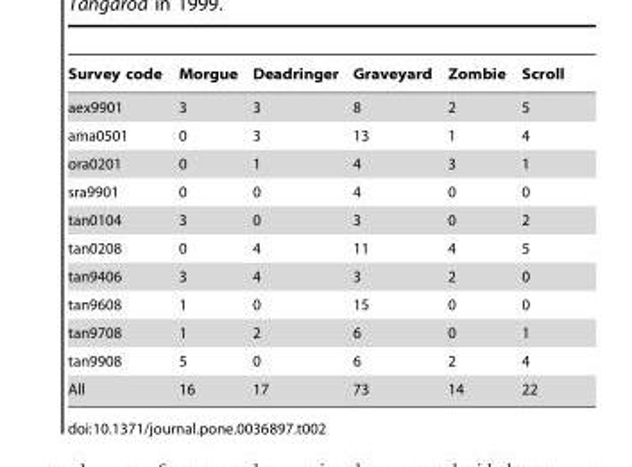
<table><thead><tr><td>Survey code</td><td>Morgue</td><td>Deadringer</td><td>Graveyard</td><td>Zombie</td><td>Scroll</td></tr></thead><tbody><tr><td>aex9901</td><td>3</td><td>3</td><td>8</td><td>2</td><td>5</td></tr><tr><td>ama0501</td><td>0</td><td>3</td><td>13</td><td>1</td><td>4</td></tr><tr><td>ora0201</td><td>0</td><td>1</td><td>4</td><td>3</td><td>1</td></tr><tr><td>sra9901</td><td>0</td><td>0</td><td>4</td><td>0</td><td>0</td></tr><tr><td>tan0104</td><td>3</td><td>0</td><td>3</td><td>0</td><td>2</td></tr><tr><td>tan0208</td><td>0</td><td>4</td><td>11</td><td>4</td><td>5</td></tr><tr><td>tan9406</td><td>3</td><td>4</td><td>3</td><td>2</td><td>0</td></tr><tr><td>tan9608</td><td>1</td><td>0</td><td>15</td><td>0</td><td>0</td></tr><tr><td>tan9708</td><td>1</td><td>2</td><td>6</td><td>0</td><td>1</td></tr><tr><td>tan9908</td><td>5</td><td>0</td><td>6</td><td>2</td><td>4</td></tr><tr><td>All</td><td>16</td><td>17</td><td>73</td><td>14</td><td>22</td></tr></tbody></table>